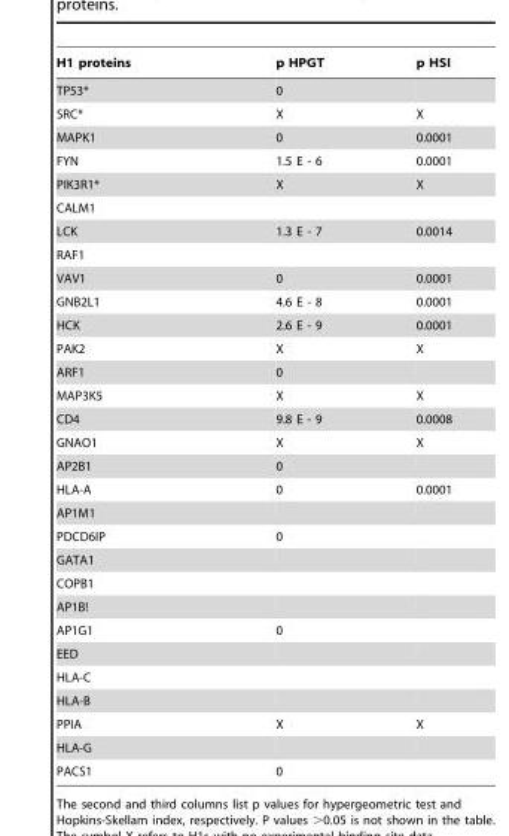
<table><thead><tr><td>H1 proteins</td><td>p HPGT</td><td>p HSI</td></tr></thead><tbody><tr><td>TP53*</td><td>0</td><td></td></tr><tr><td>SRC*</td><td>X</td><td>X</td></tr><tr><td>MAPK1</td><td>0</td><td>0.0001</td></tr><tr><td>FYN</td><td>1.5 E - 6</td><td>0.0001</td></tr><tr><td>PIK3R1*</td><td>X</td><td>X</td></tr><tr><td colspan="3">CALM1</td></tr><tr><td>LCK</td><td>1.3 E - 7</td><td>0.0014</td></tr><tr><td colspan="3">RAF1</td></tr><tr><td>VAV1</td><td>0</td><td>0.0001</td></tr><tr><td>GNB2L1</td><td>4.6 E - 8</td><td>0.0001</td></tr><tr><td>HCK</td><td>2.6 E - 9</td><td>0.0001</td></tr><tr><td>PAK2</td><td>X</td><td>X</td></tr><tr><td>ARF1</td><td>0</td><td></td></tr><tr><td>MAP3K5</td><td>X</td><td>X</td></tr><tr><td>CD4</td><td>9.8 E - 9</td><td>0.0008</td></tr><tr><td>GNAO1</td><td>X</td><td>X</td></tr><tr><td>AP2B1</td><td>0</td><td></td></tr><tr><td>HLA-A</td><td>0</td><td>0.0001</td></tr><tr><td colspan="3">AP1M1</td></tr><tr><td>PDCD6IP</td><td>0</td><td></td></tr><tr><td colspan="3">GATA1</td></tr><tr><td colspan="3">COPB1</td></tr><tr><td colspan="3">AP1B!</td></tr><tr><td>AP1G1</td><td>0</td><td></td></tr><tr><td colspan="3">EED</td></tr><tr><td colspan="3">HLA-C</td></tr><tr><td colspan="3">HLA-B</td></tr><tr><td>PPIA</td><td>X</td><td>X</td></tr><tr><td colspan="3">HLA-G</td></tr><tr><td>PACS1</td><td>0</td><td></td></tr></tbody></table>